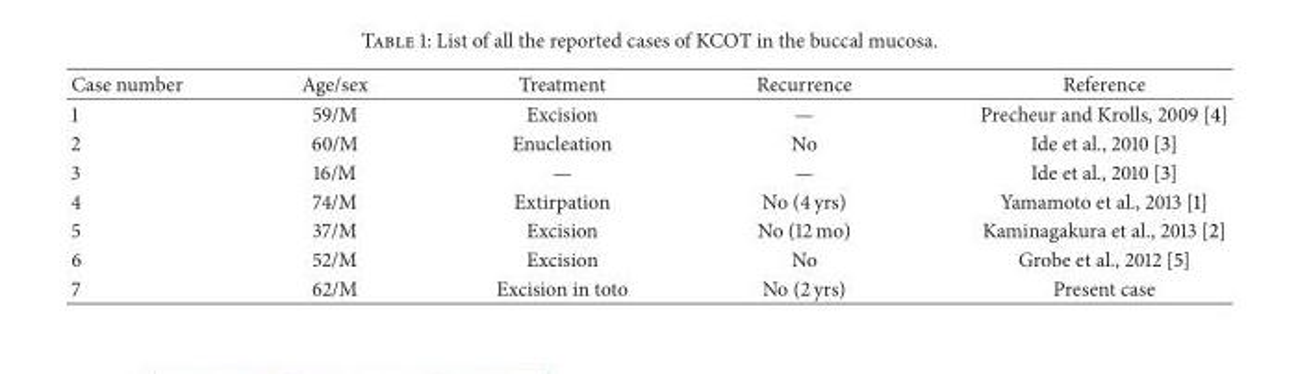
<table><thead><tr><td>Case number</td><td>Age/sex</td><td>Treatment</td><td>Recurrence</td><td>Reference</td></tr></thead><tbody><tr><td>1</td><td>59/M</td><td>Excision</td><td>—</td><td>Precheur and Krolls, 2009 [4]</td></tr><tr><td>2</td><td>60/M</td><td>Enucleation</td><td>No</td><td>Ide et al., 2010 [3]</td></tr><tr><td>3</td><td>16/M</td><td>—</td><td>—</td><td>Ide et al., 2010 [3]</td></tr><tr><td>4</td><td>74/M</td><td>Extirpation</td><td>No (4 yrs)</td><td>Yamamoto et al., 2013 [1]</td></tr><tr><td>5</td><td>37/M</td><td>Excision</td><td>No (12 mo)</td><td>Kaminagakura et al., 2013 [2]</td></tr><tr><td>6</td><td>52/M</td><td>Excision</td><td>No</td><td>Grobe et al., 2012 [5]</td></tr><tr><td>7</td><td>62/M</td><td>Excision in toto</td><td>No (2 yrs)</td><td>Present case</td></tr></tbody></table>